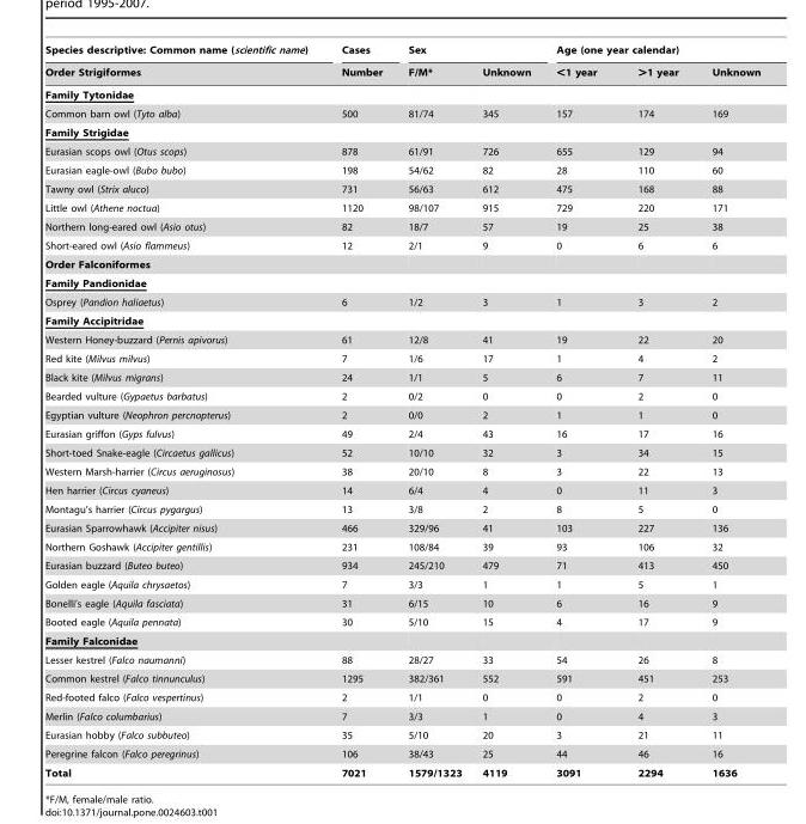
<table><thead><tr><td rowspan="2">Species descriptive: Common name (scientific name) Order Strigiformes</td><td rowspan="2">Cases Number</td><td colspan="2">Sex</td><td colspan="3">Age (one year calendar)</td></tr><tr><td>F/M*</td><td>Unknown</td><td>&lt;1 year</td><td>&gt;1 year</td><td>Unknown</td></tr></thead><tbody><tr><td colspan="7">Family Tytonidae</td></tr><tr><td>Common barn owl (Tyto alba)</td><td>500</td><td>81/74</td><td>345</td><td>157</td><td>174</td><td>169</td></tr><tr><td colspan="7">Family Strigidae</td></tr><tr><td>Eurasian scops owl (Otus scops)</td><td>878</td><td>61/91</td><td>726</td><td>655</td><td>129</td><td>94</td></tr><tr><td>Eurasian eagle-owl (Bubo bubo)</td><td>198</td><td>54/62</td><td>82</td><td>28</td><td>110</td><td>60</td></tr><tr><td>Tawny owl (Strix aluco)</td><td>731</td><td>56/63</td><td>612</td><td>475</td><td>168</td><td>88</td></tr><tr><td>Little owl (Athene noctua)</td><td>1120</td><td>98/107</td><td>915</td><td>729</td><td>220</td><td>171</td></tr><tr><td>Northern long-eared owl (Asio otus)</td><td>82</td><td>18/7</td><td>57</td><td>19</td><td>25</td><td>38</td></tr><tr><td>Short-eared owl (Asio flammeus)</td><td>12</td><td>2/1</td><td>9</td><td>0</td><td>6</td><td>6</td></tr><tr><td colspan="7">Order Falconiformes</td></tr><tr><td colspan="7">Family Pandionidae</td></tr><tr><td>Osprey (Pandion haliaetus)</td><td>6</td><td>1/2</td><td>3</td><td>1</td><td>3</td><td>2</td></tr><tr><td colspan="7">Family Accipitridae</td></tr><tr><td>Western Honey-buzzard (Pernis apivorus)</td><td>61</td><td>12/8</td><td>41</td><td>19</td><td>22</td><td>20</td></tr><tr><td>Red kite (Milvus milvus)</td><td>7</td><td>1/6</td><td>17</td><td>1</td><td>4</td><td>2</td></tr><tr><td>Black kite (Milvus migrans)</td><td>24</td><td>1/1</td><td>5</td><td>6</td><td>7</td><td>11</td></tr><tr><td>Bearded vulture (Gypaetus barbatus)</td><td>2</td><td>0/2</td><td>0</td><td>0</td><td>2</td><td>0</td></tr><tr><td>Egyptian vulture (Neophron percnopterus)</td><td>2</td><td>0/0</td><td>2</td><td>1</td><td>1</td><td>0</td></tr><tr><td>Eurasian griffon (Gyps fulvus)</td><td>49</td><td>2/4</td><td>43</td><td>16</td><td>17</td><td>16</td></tr><tr><td>Short-toed Snake-eagle (Circaetus gallicus)</td><td>52</td><td>10/10</td><td>32</td><td>3</td><td>34</td><td>15</td></tr><tr><td>Western Marsh-harrier (Circus aeruginosus)</td><td>38</td><td>20/10</td><td>8</td><td>3</td><td>22</td><td>13</td></tr><tr><td>Hen harrier (Circus cyaneus)</td><td>14</td><td>6/4</td><td>4</td><td>0</td><td>11</td><td>3</td></tr><tr><td>Montagu’s harrier (Circus pygargus)</td><td>13</td><td>3/8</td><td>2</td><td>8</td><td>5</td><td>0</td></tr><tr><td>Eurasian Sparrowhawk (Accipiter nisus)</td><td>466</td><td>329/96</td><td>41</td><td>103</td><td>227</td><td>136</td></tr><tr><td>Northern Goshawk (Accipiter gentillis)</td><td>231</td><td>108/84</td><td>39</td><td>93</td><td>106</td><td>32</td></tr><tr><td>Eurasian buzzard (Buteo buteo)</td><td>934</td><td>245/210</td><td>479</td><td>71</td><td>413</td><td>450</td></tr><tr><td>Golden eagle (Aquila chrysaetos)</td><td>7</td><td>3/3</td><td>1</td><td>1</td><td>5</td><td>1</td></tr><tr><td>Bonelli’s eagle (Aquila fasciata)</td><td>31</td><td>6/15</td><td>10</td><td>6</td><td>16</td><td>9</td></tr><tr><td>Booted eagle (Aquila pennata)</td><td>30</td><td>5/10</td><td>15</td><td>4</td><td>17</td><td>9</td></tr><tr><td colspan="7">Family Falconidae</td></tr><tr><td>Lesser kestrel (Falco naumanni)</td><td>88</td><td>28/27</td><td>33</td><td>54</td><td>26</td><td>8</td></tr><tr><td>Common kestrel (Falco tinnunculus)</td><td>1295</td><td>382/361</td><td>552</td><td>591</td><td>451</td><td>253</td></tr><tr><td>Red-footed falco (Falco vespertinus)</td><td>2</td><td>1/1</td><td>0</td><td>0</td><td>2</td><td>0</td></tr><tr><td>Merlin (Falco columbarius)</td><td>7</td><td>3/3</td><td>1</td><td>0</td><td>4</td><td>3</td></tr><tr><td>Eurasian hobby (Falco subbuteo)</td><td>35</td><td>5/10</td><td>20</td><td>3</td><td>21</td><td>11</td></tr><tr><td>Peregrine falcon (Falco peregrinus)</td><td>106</td><td>38/43</td><td>25</td><td>44</td><td>46</td><td>16</td></tr><tr><td>Total</td><td>7021</td><td>1579/1323</td><td>4119</td><td>3091</td><td>2294</td><td>1636</td></tr></tbody></table>